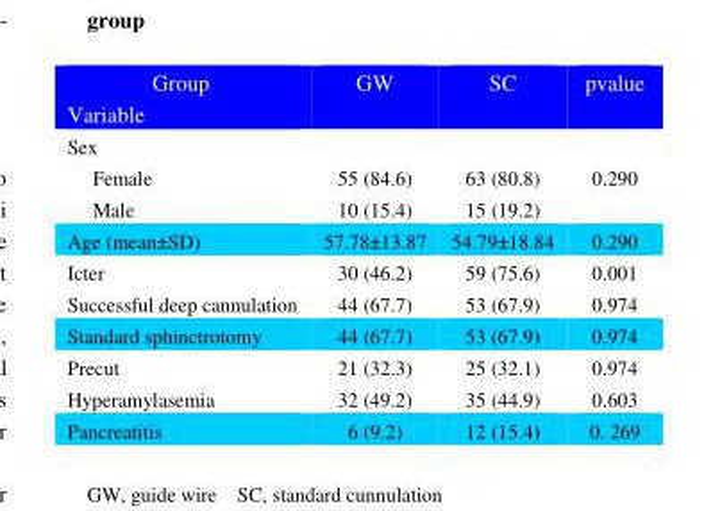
<table><thead><tr><td>pvalue</td><td>SC</td><td>GW</td><td>Group Variable</td></tr></thead><tbody><tr><td>0.290</td><td>63 (80.8) 15 (19.2)</td><td>55 (84.6) 10 (15.4)</td><td>Sex Female Male</td></tr><tr><td>0.290</td><td>54.79±18.84</td><td>57.78±13.87</td><td>Age (mean±SD)</td></tr><tr><td>0.001</td><td>59 (75.6)</td><td>30 (46.2)</td><td>Icter</td></tr><tr><td>0.974</td><td>53 (67.9)</td><td>44 (67.7)</td><td>Successful deep cannulation</td></tr><tr><td>0.974</td><td>53 (67.9)</td><td>44 (67.7)</td><td>Standard sphinctrotomy</td></tr><tr><td>0.974</td><td>25 (32.1)</td><td>21 (32.3)</td><td>Precut</td></tr><tr><td>0.603</td><td>35 (44.9)</td><td>32 (49.2)</td><td>Hyperamylasemia</td></tr><tr><td>0. 269</td><td>12 (15.4)</td><td>6 (9.2)</td><td>Pancreatitis</td></tr></tbody></table>